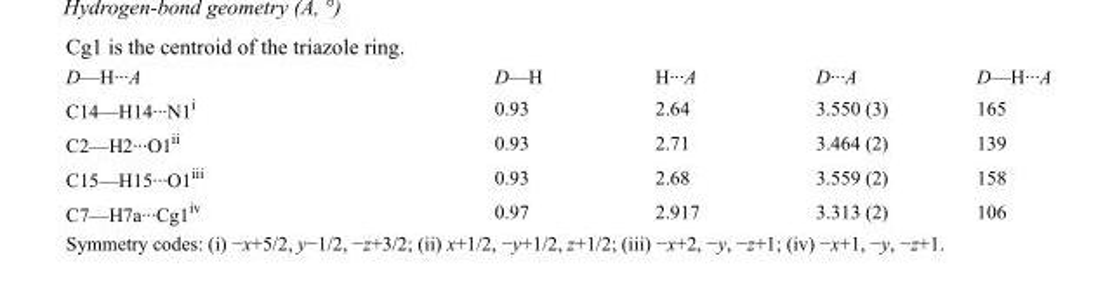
<table><tbody><tr><td>D—H···A</td><td>D—H</td><td>H···A</td><td>D···A</td><td>D—H···A</td></tr><tr><td>C14—H14···N1<sup>i</sup></td><td>0.93</td><td>2.64</td><td>3.550 (3)</td><td>165</td></tr><tr><td>C2—H2···O1<sup>ii</sup></td><td>0.93</td><td>2.71</td><td>3.464 (2)</td><td>139</td></tr><tr><td>C15—H15···O1<sup>iii</sup></td><td>0.93</td><td>2.68</td><td>3.559 (2)</td><td>158</td></tr><tr><td>C7—H7a···Cg1<sup>iv</sup></td><td>0.97</td><td>2.917</td><td>3.313 (2)</td><td>106</td></tr></tbody></table>